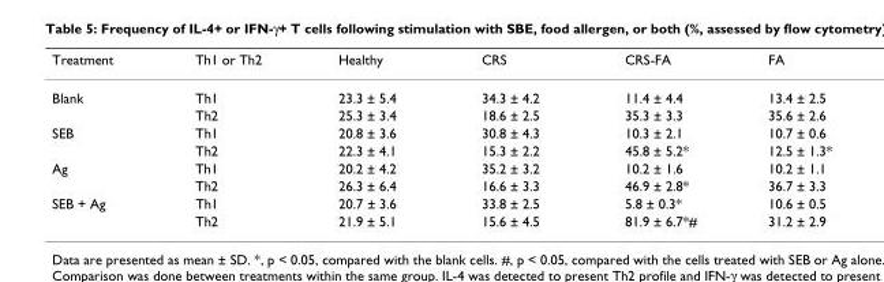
<table><thead><tr><td>Treatment</td><td>Th1 or Th2</td><td>Healthy</td><td>CRS</td><td>CRS-FA</td><td>FA</td></tr></thead><tbody><tr><td rowspan="2">Blank</td><td>Th1</td><td>23.3 ± 5.4</td><td>34.3 ± 4.2</td><td>11.4 ± 4.4</td><td>13.4 ± 2.5</td></tr><tr><td>Th2</td><td>25.3 ± 3.4</td><td>18.6 ± 2.5</td><td>35.3 ± 3.3</td><td>35.6 ± 2.6</td></tr><tr><td rowspan="2">SEB</td><td>Th1</td><td>20.8 ± 3.6</td><td>30.8 ± 4.3</td><td>10.3 ± 2.1</td><td>10.7 ± 0.6</td></tr><tr><td>Th2</td><td>22.3 ± 4.1</td><td>15.3 ± 2.2</td><td>45.8 ± 5.2*</td><td>12.5 ± 1.3*</td></tr><tr><td rowspan="2">Ag</td><td>Th1</td><td>20.2 ± 4.2</td><td>35.2 ± 3.2</td><td>10.2 ± 1.6</td><td>10.2 ± 1.1</td></tr><tr><td>Th2</td><td>26.3 ± 6.4</td><td>16.6 ± 3.3</td><td>46.9 ± 2.8*</td><td>36.7 ± 3.3</td></tr><tr><td rowspan="2">SEB + Ag</td><td>Th1</td><td>20.7 ± 3.6</td><td>33.8 ± 2.5</td><td>5.8 ± 0.3*</td><td>10.6 ± 0.5</td></tr><tr><td>Th2</td><td>21.9 ± 5.1</td><td>15.6 ± 4.5</td><td>81.9 ± 6.7*#</td><td>31.2 ± 2.9</td></tr></tbody></table>